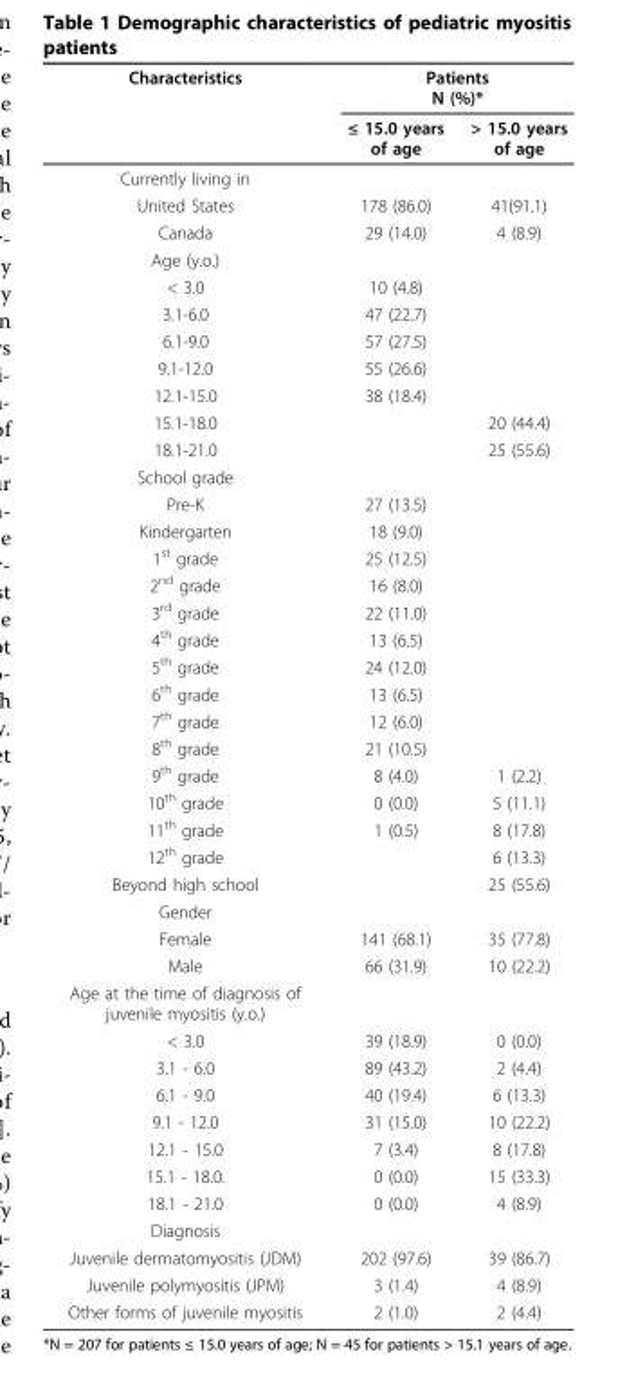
<table><thead><tr><td rowspan="2">Characteristics</td><td colspan="2">Patients N (%)*</td></tr><tr><td>≤ 15.0 years of age</td><td>&gt; 15.0 years of age</td></tr></thead><tbody><tr><td colspan="3">Currently living in</td></tr><tr><td>United States</td><td>178 (86.0)</td><td>41(91.1)</td></tr><tr><td>Canada</td><td>29 (14.0)</td><td>4 (8.9)</td></tr><tr><td colspan="3">Age (y.o.)</td></tr><tr><td>&lt; 3.0</td><td>10 (4.8)</td><td></td></tr><tr><td>3.1-6.0</td><td>47 (22.7)</td><td></td></tr><tr><td>6.1-9.0</td><td>57 (27.5)</td><td></td></tr><tr><td>9.1-12.0</td><td>55 (26.6)</td><td></td></tr><tr><td>12.1-15.0</td><td>38 (18.4)</td><td></td></tr><tr><td>15.1-18.0</td><td></td><td>20 (44.4)</td></tr><tr><td>18.1-21.0</td><td></td><td>25 (55.6)</td></tr><tr><td colspan="3">School grade</td></tr><tr><td>Pre-K</td><td>27 (13.5)</td><td></td></tr><tr><td>Kindergarten</td><td>18 (9.0)</td><td></td></tr><tr><td>1<sup>st</sup> grade</td><td>25 (12.5)</td><td></td></tr><tr><td>2<sup>nd</sup> grade</td><td>16 (8.0)</td><td></td></tr><tr><td>3<sup>rd</sup> grade</td><td>22 (11.0)</td><td></td></tr><tr><td>4<sup>th</sup> grade</td><td>13 (6.5)</td><td></td></tr><tr><td>5<sup>th</sup> grade</td><td>24 (12.0)</td><td></td></tr><tr><td>6<sup>th</sup> grade</td><td>13 (6.5)</td><td></td></tr><tr><td>7<sup>th</sup> grade</td><td>12 (6.0)</td><td></td></tr><tr><td>8<sup>th</sup> grade</td><td>21 (10.5)</td><td></td></tr><tr><td>9<sup>th</sup> grade</td><td>8 (4.0)</td><td>1 (2.2)</td></tr><tr><td>10<sup>th</sup> grade</td><td>0 (0.0)</td><td>5 (11.1)</td></tr><tr><td>11<sup>th</sup> grade</td><td>1 (0.5)</td><td>8 (17.8)</td></tr><tr><td>12<sup>th</sup> grade</td><td></td><td>6 (13.3)</td></tr><tr><td>Beyond high school</td><td></td><td>25 (55.6)</td></tr><tr><td colspan="3">Gender</td></tr><tr><td>Female</td><td>141 (68.1)</td><td>35 (77.8)</td></tr><tr><td>Male</td><td>66 (31.9)</td><td>10 (22.2)</td></tr><tr><td colspan="3">Age at the time of diagnosis of juvenile myositis (y.o.)</td></tr><tr><td>&lt; 3.0</td><td>39 (18.9)</td><td>0 (0.0)</td></tr><tr><td>3.1 - 6.0</td><td>89 (43.2)</td><td>2 (4.4)</td></tr><tr><td>6.1 - 9.0</td><td>40 (19.4)</td><td>6 (13.3)</td></tr><tr><td>9.1 - 12.0</td><td>31 (15.0)</td><td>10 (22.2)</td></tr><tr><td>12.1 - 15.0</td><td>7 (3.4)</td><td>8 (17.8)</td></tr><tr><td>15.1 - 18.0.</td><td>0 (0.0)</td><td>15 (33.3)</td></tr><tr><td>18.1 - 21.0</td><td>0 (0.0)</td><td>4 (8.9)</td></tr><tr><td colspan="3">Diagnosis</td></tr><tr><td>Juvenile dermatomyositis (JDM)</td><td>202 (97.6)</td><td>39 (86.7)</td></tr><tr><td>Juvenile polymyositis (JPM)</td><td>3 (1.4)</td><td>4 (8.9)</td></tr><tr><td>Other forms of juvenile myositis</td><td>2 (1.0)</td><td>2 (4.4)</td></tr></tbody></table>